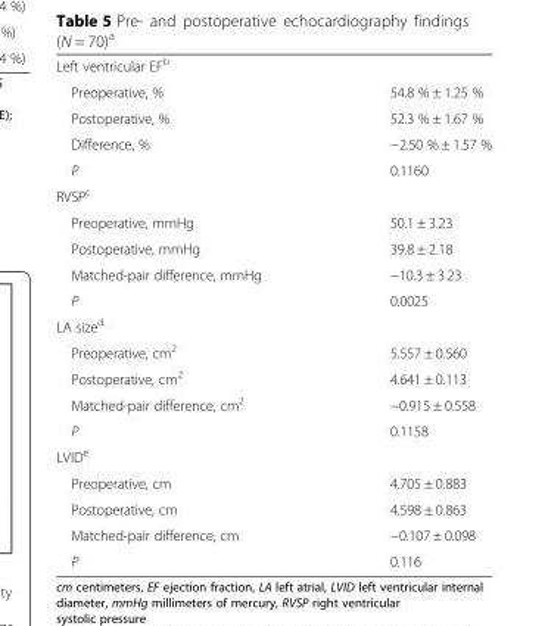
<table><tbody><tr><td colspan="2">Left ventricular EF<sup>b</sup></td></tr><tr><td>Preoperative, %</td><td>54.8 % ± 1.25 %</td></tr><tr><td>Postoperative, %</td><td>52.3 % ± 1.67 %</td></tr><tr><td>Difference, %</td><td>−2.50 % ± 1.57 %</td></tr><tr><td>P</td><td>0.1160</td></tr><tr><td colspan="2">RVSP<sup>c</sup></td></tr><tr><td>Preoperative, mmHg</td><td>50.1 ± 3.23</td></tr><tr><td>Postoperative, mmHg</td><td>39.8 ± 2.18</td></tr><tr><td>Matched-pair difference, mmHg</td><td>−10.3 ± 3.23</td></tr><tr><td>P</td><td>0.0025</td></tr><tr><td colspan="2">LA size<sup>d</sup></td></tr><tr><td>Preoperative, cm<sup>2</sup></td><td>5.557 ± 0.560</td></tr><tr><td>Postoperative, cm<sup>2</sup></td><td>4.641 ± 0.113</td></tr><tr><td>Matched-pair difference, cm<sup>2</sup></td><td>−0.915 ± 0.558</td></tr><tr><td>P</td><td>0.1158</td></tr><tr><td colspan="2">LVID<sup>e</sup></td></tr><tr><td>Preoperative, cm</td><td>4.705 ± 0.883</td></tr><tr><td>Postoperative, cm</td><td>4.598 ± 0.863</td></tr><tr><td>Matched-pair difference, cm</td><td>−0.107 ± 0.098</td></tr><tr><td>P</td><td>0.116</td></tr></tbody></table>